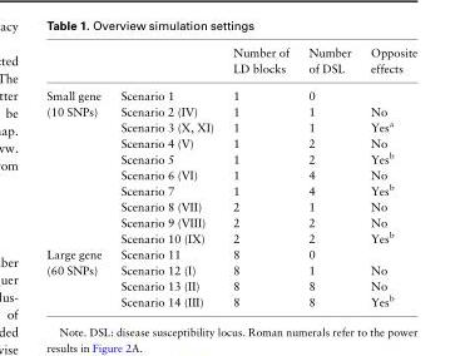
<table><thead><tr><td></td><td></td><td>Number of LD blocks</td><td>Number of DSL</td><td>Opposite effects</td></tr></thead><tbody><tr><td>Small gene</td><td>Scenario 1</td><td>1</td><td>0</td><td></td></tr><tr><td rowspan="9">(10 SNPs)</td><td>Scenario 2 (IV)</td><td>1</td><td>1</td><td>No</td></tr><tr><td>Scenario 3 (X, XI)</td><td>1</td><td>1</td><td>Yes<sup>a</sup></td></tr><tr><td>Scenario 4 (V)</td><td>1</td><td>2</td><td>No</td></tr><tr><td>Scenario 5</td><td>1</td><td>2</td><td>Yes<sup>b</sup></td></tr><tr><td>Scenario 6 (VI)</td><td>1</td><td>4</td><td>No</td></tr><tr><td>Scenario 7</td><td>1</td><td>4</td><td>Yes<sup>b</sup></td></tr><tr><td>Scenario 8 (VII)</td><td>2</td><td>1</td><td>No</td></tr><tr><td>Scenario 9 (VIII)</td><td>2</td><td>2</td><td>No</td></tr><tr><td>Scenario 10 (IX)</td><td>2</td><td>2</td><td>Yes<sup>b</sup></td></tr><tr><td>Large gene</td><td>Scenario 11</td><td>8</td><td>0</td><td></td></tr><tr><td rowspan="3">(60 SNPs)</td><td>Scenario 12 (I)</td><td>8</td><td>1</td><td>No</td></tr><tr><td>Scenario 13 (II)</td><td>8</td><td>8</td><td>No</td></tr><tr><td>Scenario 14 (III)</td><td>8</td><td>8</td><td>Yes<sup>b</sup></td></tr></tbody></table>